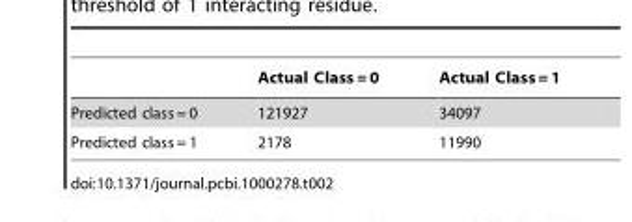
<table><thead><tr><td></td><td>Actual Class = 0</td><td>Actual Class = 1</td></tr></thead><tbody><tr><td>Predicted class = 0</td><td>121927</td><td>34097</td></tr><tr><td>Predicted class = 1</td><td>2178</td><td>11990</td></tr></tbody></table>